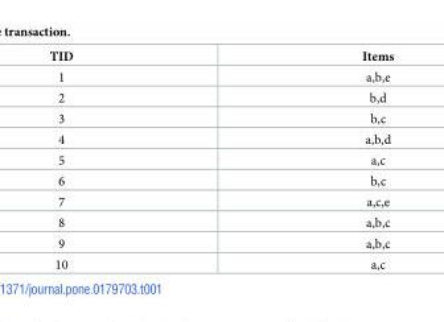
<table><thead><tr><td>TID</td><td>Items</td></tr></thead><tbody><tr><td>1</td><td>a,b,e</td></tr><tr><td>2</td><td>b,d</td></tr><tr><td>3</td><td>b,c</td></tr><tr><td>4</td><td>a,b,d</td></tr><tr><td>5</td><td>a,c</td></tr><tr><td>6</td><td>b,c</td></tr><tr><td>7</td><td>a,c,e</td></tr><tr><td>8</td><td>a,b,c</td></tr><tr><td>9</td><td>a,b,c</td></tr><tr><td>10</td><td>a,c</td></tr></tbody></table>